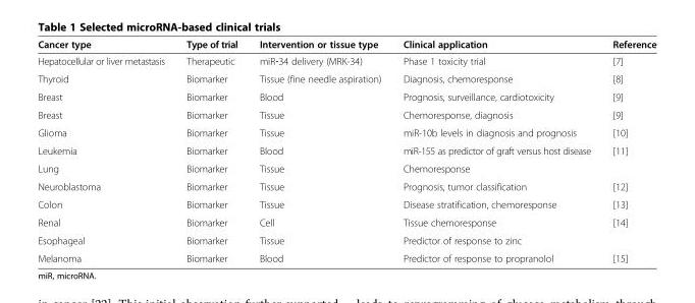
<table><thead><tr><td>Cancer type</td><td>Type of trial</td><td>Intervention or tissue type</td><td>Clinical application</td><td>Reference</td></tr></thead><tbody><tr><td>Hepatocellular or liver metastasis</td><td>Therapeutic</td><td>miR‐34 delivery (MRK-34)</td><td>Phase 1 toxicity trial</td><td>[7]</td></tr><tr><td>Thyroid</td><td>Biomarker</td><td>Tissue (fine needle aspiration)</td><td>Diagnosis, chemoresponse</td><td>[8]</td></tr><tr><td>Breast</td><td>Biomarker</td><td>Blood</td><td>Prognosis, surveillance, cardiotoxicity</td><td>[9]</td></tr><tr><td>Breast</td><td>Biomarker</td><td>Tissue</td><td>Chemoresponse, diagnosis</td><td>[9]</td></tr><tr><td>Glioma</td><td>Biomarker</td><td>Tissue</td><td>miR-10b levels in diagnosis and prognosis</td><td>[10]</td></tr><tr><td>Leukemia</td><td>Biomarker</td><td>Blood</td><td>miR-155 as predictor of graft versus host disease</td><td>[11]</td></tr><tr><td>Lung</td><td>Biomarker</td><td>Tissue</td><td>Chemoresponse</td><td></td></tr><tr><td>Neuroblastoma</td><td>Biomarker</td><td>Tissue</td><td>Prognosis, tumor classification</td><td>[12]</td></tr><tr><td>Colon</td><td>Biomarker</td><td>Tissue</td><td>Disease stratification, chemoresponse</td><td>[13]</td></tr><tr><td>Renal</td><td>Biomarker</td><td>Cell</td><td>Tissue chemoresponse</td><td>[14]</td></tr><tr><td>Esophageal</td><td>Biomarker</td><td>Tissue</td><td>Predictor of response to zinc</td><td></td></tr><tr><td>Melanoma</td><td>Biomarker</td><td>Blood</td><td>Predictor of response to propranolol</td><td>[15]</td></tr></tbody></table>